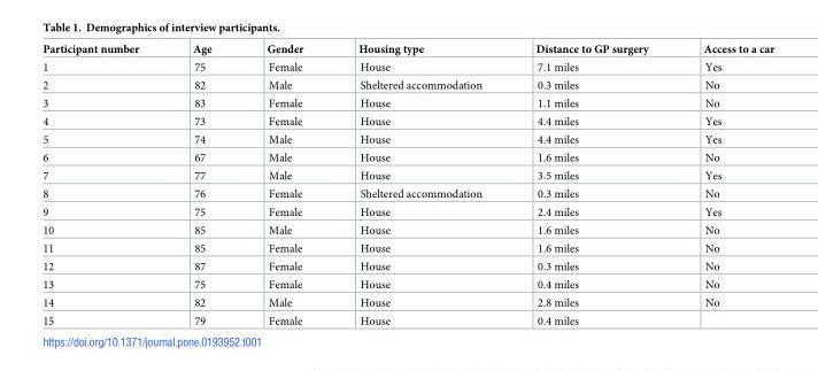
<table><thead><tr><td>Participant number</td><td>Age</td><td>Gender</td><td>Housing type</td><td>Distance to GP surgery</td><td>Access to a car</td></tr></thead><tbody><tr><td>1</td><td>75</td><td>Female</td><td>House</td><td>7.1 miles</td><td>Yes</td></tr><tr><td>2</td><td>82</td><td>Male</td><td>Sheltered accommodation</td><td>0.3 miles</td><td>No</td></tr><tr><td>3</td><td>83</td><td>Female</td><td>House</td><td>1.1 miles</td><td>No</td></tr><tr><td>4</td><td>73</td><td>Female</td><td>House</td><td>4.4 miles</td><td>Yes</td></tr><tr><td>5</td><td>74</td><td>Male</td><td>House</td><td>4.4 miles</td><td>Yes</td></tr><tr><td>6</td><td>67</td><td>Male</td><td>House</td><td>1.6 miles</td><td>No</td></tr><tr><td>7</td><td>77</td><td>Male</td><td>House</td><td>3.5 miles</td><td>Yes</td></tr><tr><td>8</td><td>76</td><td>Female</td><td>Sheltered accommodation</td><td>0.3 miles</td><td>No</td></tr><tr><td>9</td><td>75</td><td>Female</td><td>House</td><td>2.4 miles</td><td>Yes</td></tr><tr><td>10</td><td>85</td><td>Male</td><td>House</td><td>1.6 miles</td><td>No</td></tr><tr><td>11</td><td>85</td><td>Female</td><td>House</td><td>1.6 miles</td><td>No</td></tr><tr><td>12</td><td>87</td><td>Female</td><td>House</td><td>0.3 miles</td><td>No</td></tr><tr><td>13</td><td>75</td><td>Female</td><td>House</td><td>0.4 miles</td><td>No</td></tr><tr><td>14</td><td>82</td><td>Male</td><td>House</td><td>2.8 miles</td><td>No</td></tr><tr><td>15</td><td>79</td><td>Female</td><td>House</td><td>0.4 miles</td><td></td></tr></tbody></table>